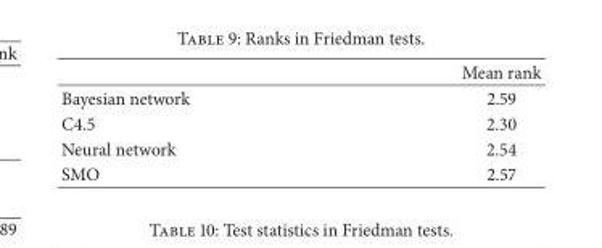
<table><thead><tr><td></td><td>Mean rank</td></tr></thead><tbody><tr><td>Bayesian network</td><td>2.59</td></tr><tr><td>C4.5</td><td>2.30</td></tr><tr><td>Neural network</td><td>2.54</td></tr><tr><td>SMO</td><td>2.57</td></tr></tbody></table>